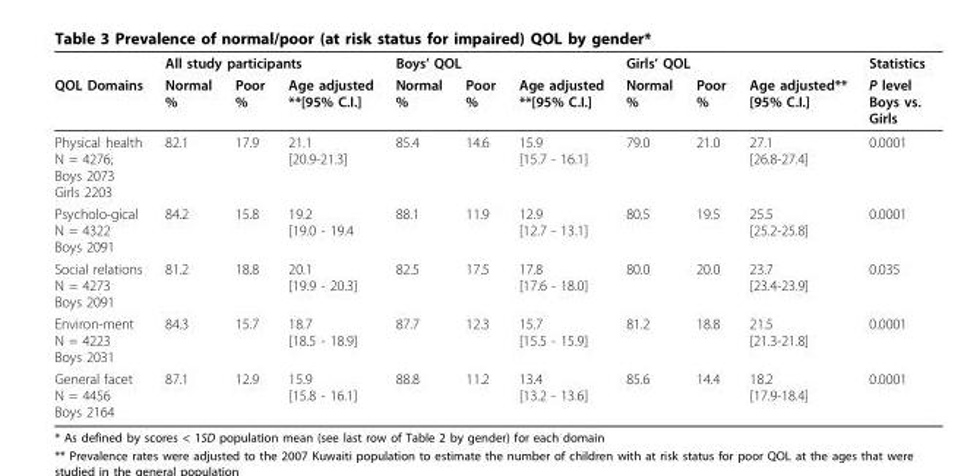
<table><thead><tr><td rowspan="2">QOL Domains</td><td colspan="3">All study participants</td><td colspan="3">Boys’ QOL</td><td colspan="3">Girls’ QOL</td><td rowspan="2">Statistics P level Boys vs. Girls</td></tr><tr><td>Normal %</td><td>Poor %</td><td>Age adjusted **[95% C.I.]</td><td>Normal %</td><td>Poor %</td><td>Age adjusted **[95% C.I.]</td><td>Normal %</td><td>Poor %</td><td>Age adjusted** [95% C.I.]</td></tr></thead><tbody><tr><td>Physical health N = 4276; Boys 2073 Girls 2203</td><td>82.1</td><td>17.9</td><td>21.1 [20.9-21.3]</td><td>85.4</td><td>14.6</td><td>15.9 [15.7 - 16.1]</td><td>79.0</td><td>21.0</td><td>27.1 [26.8-27.4]</td><td>0.0001</td></tr><tr><td>Psycholo-gical N = 4322 Boys 2091</td><td>84.2</td><td>15.8</td><td>19.2 [19.0 - 19.4</td><td>88.1</td><td>11.9</td><td>12.9 [12.7 - 13.1]</td><td>80.5</td><td>19.5</td><td>25.5 [25.2-25.8]</td><td>0.0001</td></tr><tr><td>Social relations N = 4273 Boys 2091</td><td>81.2</td><td>18.8</td><td>20.1 [19.9 - 20.3]</td><td>82.5</td><td>17.5</td><td>17.8 [17.6 - 18.0]</td><td>80.0</td><td>20.0</td><td>23.7 [23.4-23.9]</td><td>0.035</td></tr><tr><td>Environ-ment N = 4223 Boys 2031</td><td>84.3</td><td>15.7</td><td>18.7 [18.5 - 18.9]</td><td>87.7</td><td>12.3</td><td>15.7 [15.5 - 15.9]</td><td>81.2</td><td>18.8</td><td>21.5 [21.3-21.8]</td><td>0.0001</td></tr><tr><td>General facet N = 4456 Boys 2164</td><td>87.1</td><td>12.9</td><td>15.9 [15.8 - 16.1]</td><td>88.8</td><td>11.2</td><td>13.4 [13.2 - 13.6]</td><td>85.6</td><td>14.4</td><td>18.2 [17.9-18.4]</td><td>0.0001</td></tr></tbody></table>